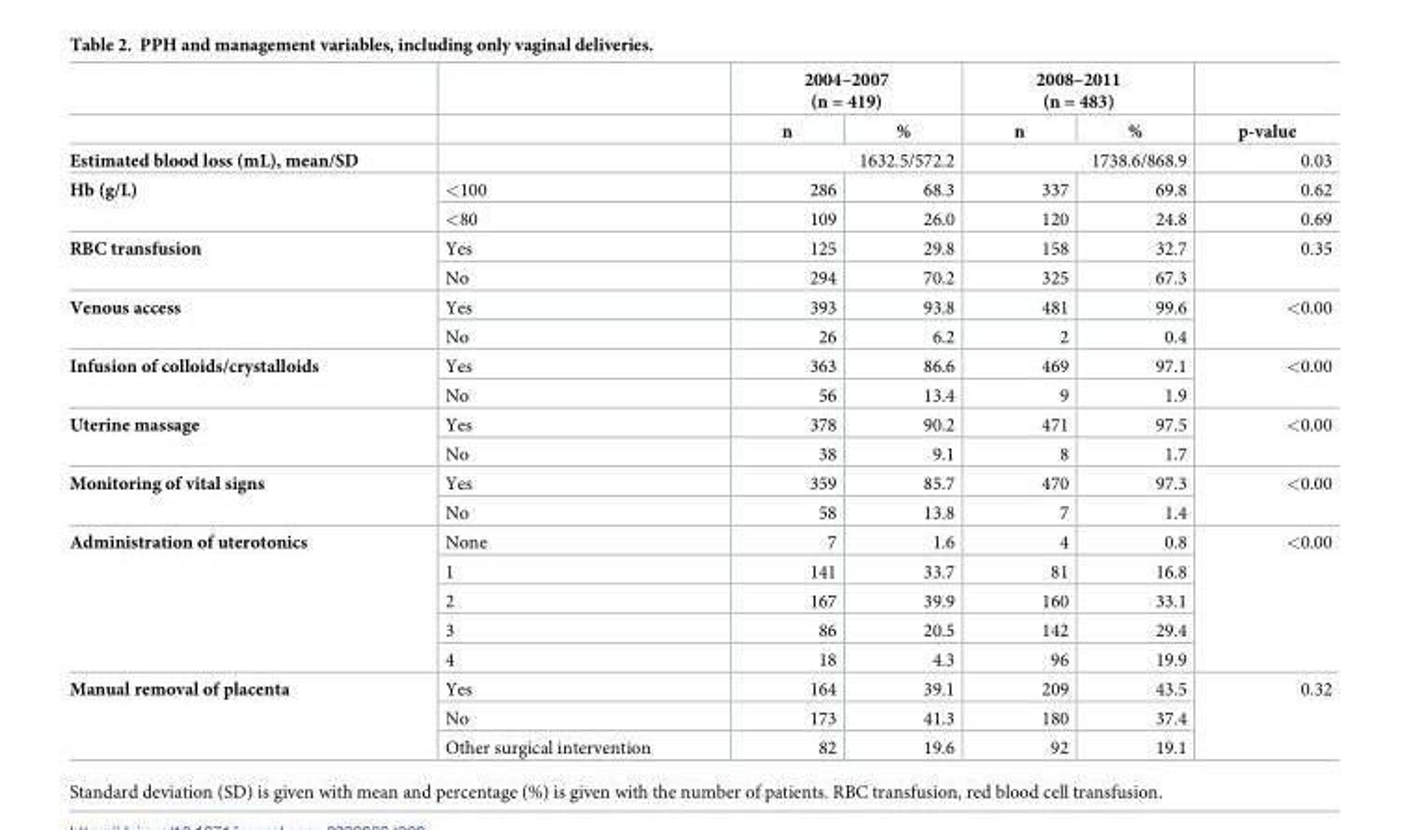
<table><thead><tr><td rowspan="2"></td><td rowspan="2"></td><td colspan="2">2004–2007 (n = 419)</td><td colspan="2">2008–2011 (n = 483)</td><td rowspan="2">p-value</td></tr><tr><td>n</td><td>%</td><td>n</td><td>%</td></tr></thead><tbody><tr><td>Estimated blood loss (mL), mean/SD</td><td></td><td colspan="2">1632.5/572.2</td><td colspan="2">1738.6/868.9</td><td>0.03</td></tr><tr><td rowspan="2">Hb (g/L)</td><td>&lt;100</td><td>286</td><td>68.3</td><td>337</td><td>69.8</td><td>0.62</td></tr><tr><td>&lt;80</td><td>109</td><td>26.0</td><td>120</td><td>24.8</td><td>0.69</td></tr><tr><td rowspan="2">RBC transfusion</td><td>Yes</td><td>125</td><td>29.8</td><td>158</td><td>32.7</td><td rowspan="2">0.35</td></tr><tr><td>No</td><td>294</td><td>70.2</td><td>325</td><td>67.3</td></tr><tr><td rowspan="2">Venous access</td><td>Yes</td><td>393</td><td>93.8</td><td>481</td><td>99.6</td><td rowspan="2">&lt;0.00</td></tr><tr><td>No</td><td>26</td><td>6.2</td><td>2</td><td>0.4</td></tr><tr><td rowspan="2">Infusion of colloids/crystalloids</td><td>Yes</td><td>363</td><td>86.6</td><td>469</td><td>97.1</td><td rowspan="2">&lt;0.00</td></tr><tr><td>No</td><td>56</td><td>13.4</td><td>9</td><td>1.9</td></tr><tr><td rowspan="2">Uterine massage</td><td>Yes</td><td>378</td><td>90.2</td><td>471</td><td>97.5</td><td rowspan="2">&lt;0.00</td></tr><tr><td>No</td><td>38</td><td>9.1</td><td>8</td><td>1.7</td></tr><tr><td rowspan="2">Monitoring of vital signs</td><td>Yes</td><td>359</td><td>85.7</td><td>470</td><td>97.3</td><td rowspan="2">&lt;0.00</td></tr><tr><td>No</td><td>58</td><td>13.8</td><td>7</td><td>1.4</td></tr><tr><td rowspan="5">Administration of uterotonics</td><td>None</td><td>7</td><td>1.6</td><td>4</td><td>0.8</td><td rowspan="5">&lt;0.00</td></tr><tr><td>1</td><td>141</td><td>33.7</td><td>81</td><td>16.8</td></tr><tr><td>2</td><td>167</td><td>39.9</td><td>160</td><td>33.1</td></tr><tr><td>3</td><td>86</td><td>20.5</td><td>142</td><td>29.4</td></tr><tr><td>4</td><td>18</td><td>4.3</td><td>96</td><td>19.9</td></tr><tr><td rowspan="3">Manual removal of placenta</td><td>Yes</td><td>164</td><td>39.1</td><td>209</td><td>43.5</td><td rowspan="3">0.32</td></tr><tr><td>No</td><td>173</td><td>41.3</td><td>180</td><td>37.4</td></tr><tr><td>Other surgical intervention</td><td>82</td><td>19.6</td><td>92</td><td>19.1</td></tr></tbody></table>